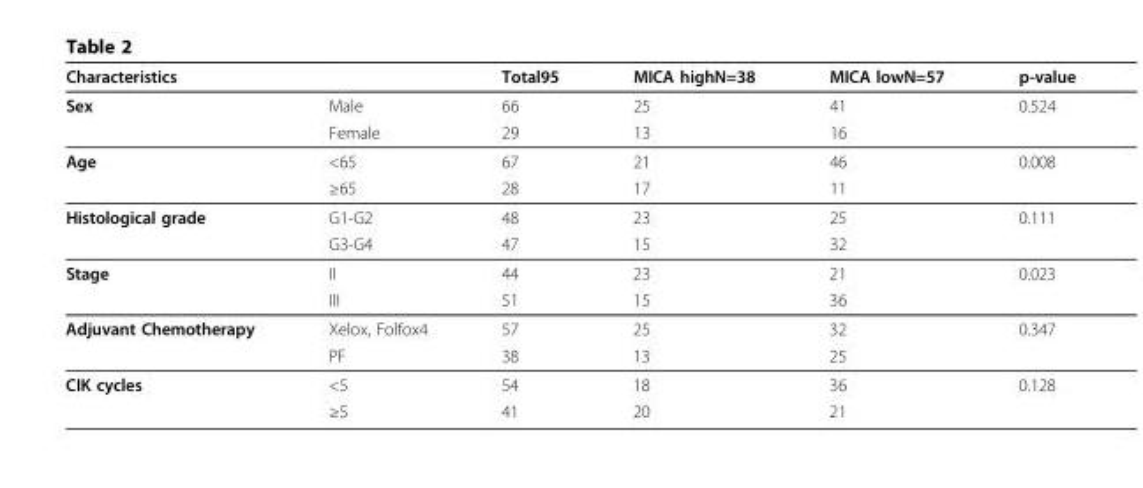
<table><thead><tr><td>Characteristics</td><td></td><td>Total95</td><td>MICA highN=38</td><td>MICA lowN=57</td><td>p-value</td></tr></thead><tbody><tr><td rowspan="2">Sex</td><td>Male</td><td>66</td><td>25</td><td>41</td><td>0.524</td></tr><tr><td>Female</td><td>29</td><td>13</td><td>16</td><td></td></tr><tr><td rowspan="2">Age</td><td>&lt;65</td><td>67</td><td>21</td><td>46</td><td>0.008</td></tr><tr><td>≥65</td><td>28</td><td>17</td><td>11</td><td></td></tr><tr><td rowspan="2">Histological grade</td><td>G1-G2</td><td>48</td><td>23</td><td>25</td><td>0.111</td></tr><tr><td>G3-G4</td><td>47</td><td>15</td><td>32</td><td></td></tr><tr><td rowspan="2">Stage</td><td>II</td><td>44</td><td>23</td><td>21</td><td>0.023</td></tr><tr><td>III</td><td>51</td><td>15</td><td>36</td><td></td></tr><tr><td rowspan="2">Adjuvant Chemotherapy</td><td>Xelox, Folfox4</td><td>57</td><td>25</td><td>32</td><td>0.347</td></tr><tr><td>PF</td><td>38</td><td>13</td><td>25</td><td></td></tr><tr><td rowspan="2">CIK cycles</td><td>&lt;5</td><td>54</td><td>18</td><td>36</td><td>0.128</td></tr><tr><td>≥5</td><td>41</td><td>20</td><td>21</td><td></td></tr></tbody></table>